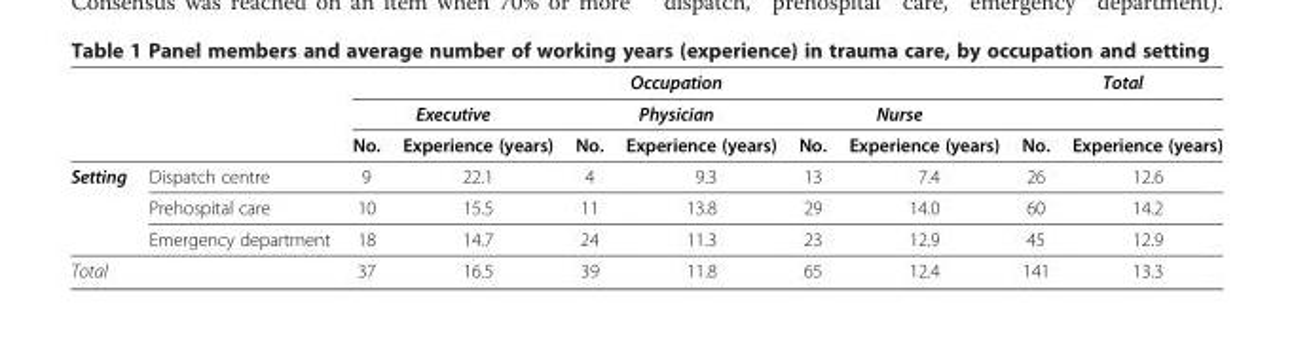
<table><thead><tr><td rowspan="3"></td><td rowspan="3"></td><td colspan="6">Occupation</td><td colspan="2">Total</td></tr><tr><td colspan="2">Executive</td><td colspan="2">Physician</td><td colspan="2">Nurse</td><td rowspan="2">No.</td><td rowspan="2">Experience (years)</td></tr><tr><td>No.</td><td>Experience (years)</td><td>No.</td><td>Experience (years)</td><td>No.</td><td>Experience (years)</td></tr></thead><tbody><tr><td rowspan="3">Setting</td><td>Dispatch centre</td><td>9</td><td>22.1</td><td>4</td><td>9.3</td><td>13</td><td>7.4</td><td>26</td><td>12.6</td></tr><tr><td>Prehospital care</td><td>10</td><td>15.5</td><td>11</td><td>13.8</td><td>29</td><td>14.0</td><td>60</td><td>14.2</td></tr><tr><td>Emergency department</td><td>18</td><td>14.7</td><td>24</td><td>11.3</td><td>23</td><td>12.9</td><td>45</td><td>12.9</td></tr><tr><td>Total</td><td></td><td>37</td><td>16.5</td><td>39</td><td>11.8</td><td>65</td><td>12.4</td><td>141</td><td>13.3</td></tr></tbody></table>